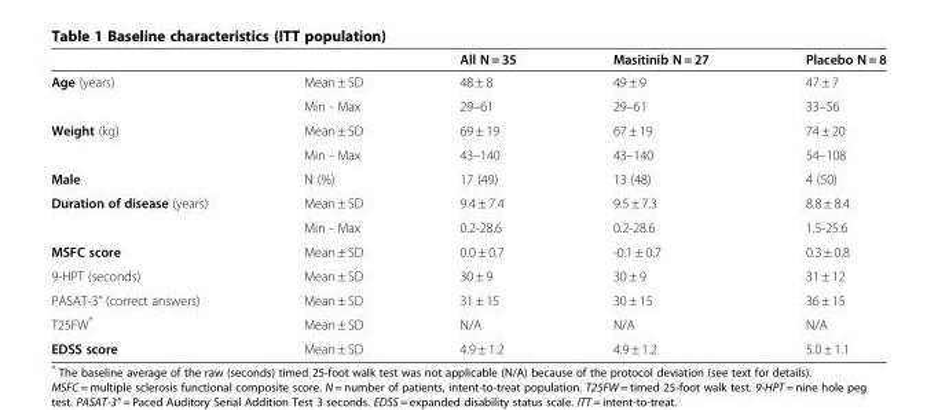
<table><thead><tr><td></td><td></td><td>All N = 35</td><td>Masitinib N = 27</td><td>Placebo N = 8</td></tr></thead><tbody><tr><td rowspan="2">Age (years)</td><td>Mean ± SD</td><td>48 ± 8</td><td>49 ± 9</td><td>47 ± 7</td></tr><tr><td>Min - Max</td><td>29–61</td><td>29–61</td><td>33–56</td></tr><tr><td rowspan="2">Weight (kg)</td><td>Mean ± SD</td><td>69 ± 19</td><td>67 ± 19</td><td>74 ± 20</td></tr><tr><td>Min - Max</td><td>43–140</td><td>43–140</td><td>54–108</td></tr><tr><td>Male</td><td>N (%)</td><td>17 (49)</td><td>13 (48)</td><td>4 (50)</td></tr><tr><td rowspan="2">Duration of disease (years)</td><td>Mean ± SD</td><td>9.4 ± 7.4</td><td>9.5 ± 7.3</td><td>8.8 ± 8.4</td></tr><tr><td>Min - Max</td><td>0.2-28.6</td><td>0.2-28.6</td><td>1.5-25.6</td></tr><tr><td>MSFC score</td><td>Mean ± SD</td><td>0.0 ± 0.7</td><td>-0.1 ± 0.7</td><td>0.3 ± 0.8</td></tr><tr><td>9-HPT (seconds)</td><td>Mean ± SD</td><td>30 ± 9</td><td>30 ± 9</td><td>31 ± 12</td></tr><tr><td>PASAT-3” (correct answers)</td><td>Mean ± SD</td><td>31 ± 15</td><td>30 ± 15</td><td>36 ± 15</td></tr><tr><td>T25FW*</td><td>Mean ± SD</td><td>N/A</td><td>N/A</td><td>N/A</td></tr><tr><td>EDSS score</td><td>Mean ± SD</td><td>4.9 ± 1.2</td><td>4.9 ± 1.2</td><td>5.0 ± 1.1</td></tr></tbody></table>